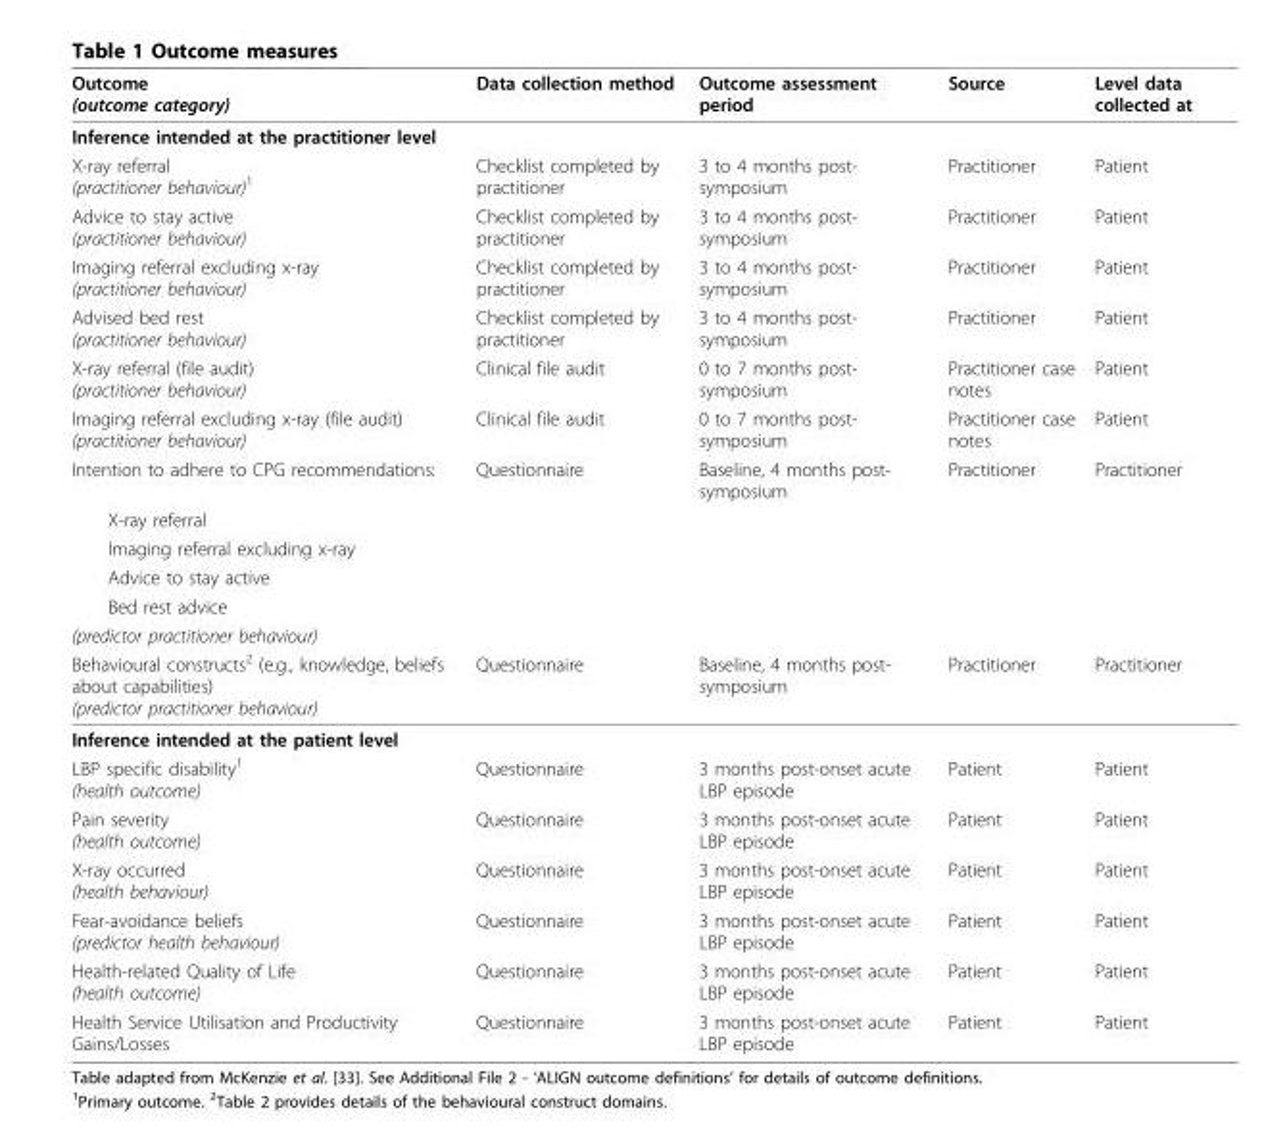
<table><thead><tr><td>Outcome (outcome category)</td><td>Data collection method</td><td>Outcome assessment period</td><td>Source</td><td>Level data collected at</td></tr></thead><tbody><tr><td colspan="5">Inference intended at the practitioner level</td></tr><tr><td>X-ray referral (practitioner behaviour)<sup>1</sup></td><td>Checklist completed by practitioner</td><td>3 to 4 months post- symposium</td><td>Practitioner</td><td>Patient</td></tr><tr><td>Advice to stay active (practitioner behaviour)</td><td>Checklist completed by practitioner</td><td>3 to 4 months post- symposium</td><td>Practitioner</td><td>Patient</td></tr><tr><td>Imaging referral excluding x-ray (practitioner behaviour)</td><td>Checklist completed by practitioner</td><td>3 to 4 months post- symposium</td><td>Practitioner</td><td>Patient</td></tr><tr><td>Advised bed rest (practitioner behaviour)</td><td>Checklist completed by practitioner</td><td>3 to 4 months post- symposium</td><td>Practitioner</td><td>Patient</td></tr><tr><td>X-ray referral (file audit) (practitioner behaviour)</td><td>Clinical file audit</td><td>0 to 7 months post- symposium</td><td>Practitioner case notes</td><td>Patient</td></tr><tr><td>Imaging referral excluding x-ray (file audit) (practitioner behaviour)</td><td>Clinical file audit</td><td>0 to 7 months post- symposium</td><td>Practitioner case notes</td><td>Patient</td></tr><tr><td>Intention to adhere to CPG recommendations:</td><td>Questionnaire</td><td>Baseline, 4 months post- symposium</td><td>Practitioner</td><td>Practitioner</td></tr><tr><td colspan="5">X-ray referral</td></tr><tr><td colspan="5">Imaging referral excluding x-ray</td></tr><tr><td colspan="5">Advice to stay active</td></tr><tr><td colspan="5">Bed rest advice</td></tr><tr><td colspan="5">(predictor practitioner behaviour)</td></tr><tr><td>Behavioural constructs<sup>2</sup> (e.g., knowledge, beliefs about capabilities) (predictor practitioner behaviour)</td><td>Questionnaire</td><td>Baseline, 4 months post- symposium</td><td>Practitioner</td><td>Practitioner</td></tr><tr><td colspan="5">Inference intended at the patient level</td></tr><tr><td>LBP specific disability<sup>1</sup> (health outcome)</td><td>Questionnaire</td><td>3 months post-onset acute LBP episode</td><td>Patient</td><td>Patient</td></tr><tr><td>Pain severity (health outcome)</td><td>Questionnaire</td><td>3 months post-onset acute LBP episode</td><td>Patient</td><td>Patient</td></tr><tr><td>X-ray occurred (health behaviour)</td><td>Questionnaire</td><td>3 months post-onset acute LBP episode</td><td>Patient</td><td>Patient</td></tr><tr><td>Fear-avoidance beliefs (predictor health behaviour)</td><td>Questionnaire</td><td>3 months post-onset acute LBP episode</td><td>Patient</td><td>Patient</td></tr><tr><td>Health-related Quality of Life (health outcome)</td><td>Questionnaire</td><td>3 months post-onset acute LBP episode</td><td>Patient</td><td>Patient</td></tr><tr><td>Health Service Utilisation and Productivity Gains/Losses</td><td>Questionnaire</td><td>3 months post-onset acute LBP episode</td><td>Patient</td><td>Patient</td></tr></tbody></table>